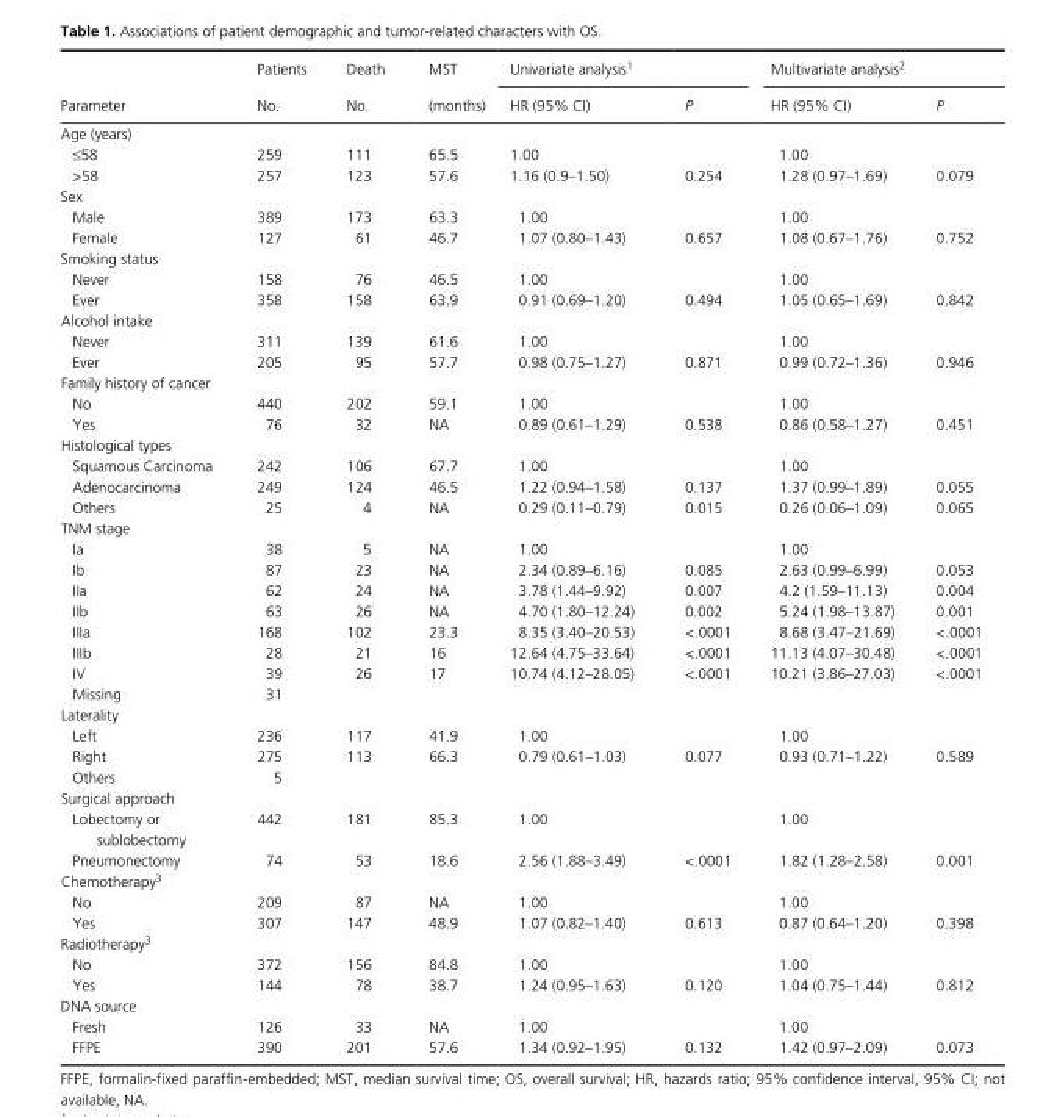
<table><thead><tr><td rowspan="2">Parameter</td><td rowspan="2">Patients No.</td><td rowspan="2">Death No.</td><td rowspan="2">MST (months)</td><td colspan="2">Univariate analysis1</td><td colspan="2">Multivariate analysis2</td></tr><tr><td>HR (95% CI)</td><td>P</td><td>HR (95% CI)</td><td>P</td></tr></thead><tbody><tr><td colspan="8">Age (years)</td></tr><tr><td>≤58</td><td>259</td><td>111</td><td>65.5</td><td>1.00</td><td></td><td>1.00</td><td></td></tr><tr><td>&gt;58</td><td>257</td><td>123</td><td>57.6</td><td>1.16 (0.9–1.50)</td><td>0.254</td><td>1.28 (0.97–1.69)</td><td>0.079</td></tr><tr><td colspan="8">Sex</td></tr><tr><td>Male</td><td>389</td><td>173</td><td>63.3</td><td>1.00</td><td></td><td>1.00</td><td></td></tr><tr><td>Female</td><td>127</td><td>61</td><td>46.7</td><td>1.07 (0.80–1.43)</td><td>0.657</td><td>1.08 (0.67–1.76)</td><td>0.752</td></tr><tr><td colspan="8">Smoking status</td></tr><tr><td>Never</td><td>158</td><td>76</td><td>46.5</td><td>1.00</td><td></td><td>1.00</td><td></td></tr><tr><td>Ever</td><td>358</td><td>158</td><td>63.9</td><td>0.91 (0.69–1.20)</td><td>0.494</td><td>1.05 (0.65–1.69)</td><td>0.842</td></tr><tr><td colspan="8">Alcohol intake</td></tr><tr><td>Never</td><td>311</td><td>139</td><td>61.6</td><td>1.00</td><td></td><td>1.00</td><td></td></tr><tr><td>Ever</td><td>205</td><td>95</td><td>57.7</td><td>0.98 (0.75–1.27)</td><td>0.871</td><td>0.99 (0.72–1.36)</td><td>0.946</td></tr><tr><td colspan="8">Family history of cancer</td></tr><tr><td>No</td><td>440</td><td>202</td><td>59.1</td><td>1.00</td><td></td><td>1.00</td><td></td></tr><tr><td>Yes</td><td>76</td><td>32</td><td>NA</td><td>0.89 (0.61–1.29)</td><td>0.538</td><td>0.86 (0.58–1.27)</td><td>0.451</td></tr><tr><td colspan="8">Histological types</td></tr><tr><td>Squamous Carcinoma</td><td>242</td><td>106</td><td>67.7</td><td>1.00</td><td></td><td>1.00</td><td></td></tr><tr><td>Adenocarcinoma</td><td>249</td><td>124</td><td>46.5</td><td>1.22 (0.94–1.58)</td><td>0.137</td><td>1.37 (0.99–1.89)</td><td>0.055</td></tr><tr><td>Others</td><td>25</td><td>4</td><td>NA</td><td>0.29 (0.11–0.79)</td><td>0.015</td><td>0.26 (0.06–1.09)</td><td>0.065</td></tr><tr><td colspan="8">TNM stage</td></tr><tr><td>Ia</td><td>38</td><td>5</td><td>NA</td><td>1.00</td><td></td><td>1.00</td><td></td></tr><tr><td>Ib</td><td>87</td><td>23</td><td>NA</td><td>2.34 (0.89–6.16)</td><td>0.085</td><td>2.63 (0.99–6.99)</td><td>0.053</td></tr><tr><td>IIa</td><td>62</td><td>24</td><td>NA</td><td>3.78 (1.44–9.92)</td><td>0.007</td><td>4.2 (1.59–11.13)</td><td>0.004</td></tr><tr><td>IIb</td><td>63</td><td>26</td><td>NA</td><td>4.70 (1.80–12.24)</td><td>0.002</td><td>5.24 (1.98–13.87)</td><td>0.001</td></tr><tr><td>IIIa</td><td>168</td><td>102</td><td>23.3</td><td>8.35 (3.40–20.53)</td><td>&lt;.0001</td><td>8.68 (3.47–21.69)</td><td>&lt;.0001</td></tr><tr><td>IIIb</td><td>28</td><td>21</td><td>16</td><td>12.64 (4.75–33.64)</td><td>&lt;.0001</td><td>11.13 (4.07–30.48)</td><td>&lt;.0001</td></tr><tr><td>IV</td><td>39</td><td>26</td><td>17</td><td>10.74 (4.12–28.05)</td><td>&lt;.0001</td><td>10.21 (3.86–27.03)</td><td>&lt;.0001</td></tr><tr><td>Missing</td><td>31</td><td></td><td></td><td></td><td></td><td></td><td></td></tr><tr><td colspan="8">Laterality</td></tr><tr><td>Left</td><td>236</td><td>117</td><td>41.9</td><td>1.00</td><td></td><td>1.00</td><td></td></tr><tr><td>Right</td><td>275</td><td>113</td><td>66.3</td><td>0.79 (0.61–1.03)</td><td>0.077</td><td>0.93 (0.71–1.22)</td><td>0.589</td></tr><tr><td>Others</td><td>5</td><td></td><td></td><td></td><td></td><td></td><td></td></tr><tr><td colspan="8">Surgical approach</td></tr><tr><td>Lobectomy or sublobectomy</td><td>442</td><td>181</td><td>85.3</td><td>1.00</td><td></td><td>1.00</td><td></td></tr><tr><td>Pneumonectomy</td><td>74</td><td>53</td><td>18.6</td><td>2.56 (1.88–3.49)</td><td>&lt;.0001</td><td>1.82 (1.28–2.58)</td><td>0.001</td></tr><tr><td colspan="8">Chemotherapy3</td></tr><tr><td>No</td><td>209</td><td>87</td><td>NA</td><td>1.00</td><td></td><td>1.00</td><td></td></tr><tr><td>Yes</td><td>307</td><td>147</td><td>48.9</td><td>1.07 (0.82–1.40)</td><td>0.613</td><td>0.87 (0.64–1.20)</td><td>0.398</td></tr><tr><td colspan="8">Radiotherapy3</td></tr><tr><td>No</td><td>372</td><td>156</td><td>84.8</td><td>1.00</td><td></td><td>1.00</td><td></td></tr><tr><td>Yes</td><td>144</td><td>78</td><td>38.7</td><td>1.24 (0.95–1.63)</td><td>0.120</td><td>1.04 (0.75–1.44)</td><td>0.812</td></tr><tr><td colspan="8">DNA source</td></tr><tr><td>Fresh</td><td>126</td><td>33</td><td>NA</td><td>1.00</td><td></td><td>1.00</td><td></td></tr><tr><td>FFPE</td><td>390</td><td>201</td><td>57.6</td><td>1.34 (0.92–1.95)</td><td>0.132</td><td>1.42 (0.97–2.09)</td><td>0.073</td></tr></tbody></table>